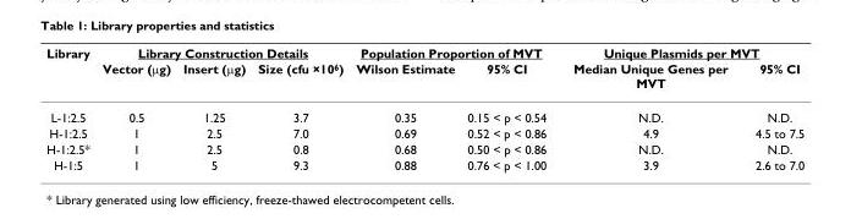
<table><thead><tr><td rowspan="2">Library</td><td colspan="3">Library Construction Details</td><td colspan="2">Population Proportion of MVT</td><td colspan="2">Unique Plasmids per MVT</td></tr><tr><td>Vector (μg)</td><td>Insert (μg)</td><td>Size (cfu ×10<sup>6</sup>)</td><td>Wilson Estimate</td><td>95% CI</td><td>Median Unique Genes per MVT</td><td>95% CI</td></tr></thead><tbody><tr><td>L-1:2.5</td><td>0.5</td><td>1.25</td><td>3.7</td><td>0.35</td><td>0.15 &lt; p &lt; 0.54</td><td>N.D.</td><td>N.D.</td></tr><tr><td>H-1:2.5</td><td>1</td><td>2.5</td><td>7.0</td><td>0.69</td><td>0.52 &lt; p &lt; 0.86</td><td>4.9</td><td>4.5 to 7.5</td></tr><tr><td>H-1:2.5*</td><td>1</td><td>2.5</td><td>0.8</td><td>0.68</td><td>0.50 &lt; p &lt; 0.86</td><td>N.D.</td><td>N.D.</td></tr><tr><td>H-1:5</td><td>1</td><td>5</td><td>9.3</td><td>0.88</td><td>0.76 &lt; p &lt; 1.00</td><td>3.9</td><td>2.6 to 7.0</td></tr></tbody></table>